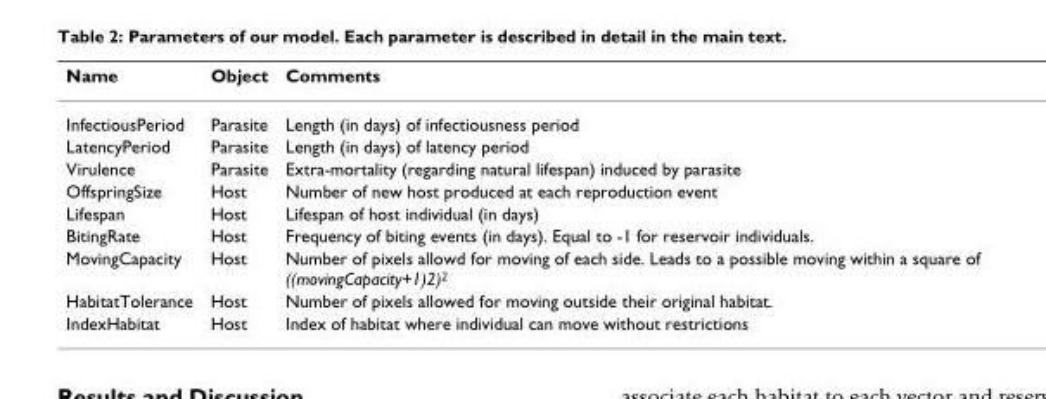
<table><thead><tr><td>Name</td><td>Object</td><td>Comments</td></tr></thead><tbody><tr><td>InfectiousPeriod</td><td>Parasite</td><td>Length (in days) of infectiousness period</td></tr><tr><td>LatencyPeriod</td><td>Parasite</td><td>Length (in days) of latency period</td></tr><tr><td>Virulence</td><td>Parasite</td><td>Extra-mortality (regarding natural lifespan) induced by parasite</td></tr><tr><td>OffspringSize</td><td>Host</td><td>Number of new host produced at each reproduction event</td></tr><tr><td>Lifespan</td><td>Host</td><td>Lifespan of host individual (in days)</td></tr><tr><td>BitingRate</td><td>Host</td><td>Frequency of biting events (in days). Equal to -1 for reservoir individuals.</td></tr><tr><td>MovingCapacity</td><td>Host</td><td>Number of pixels allowd for moving of each side. Leads to a possible moving within a square of ((movingCapacity+1)2)<sup>2</sup></td></tr><tr><td>HabitatTolerance</td><td>Host</td><td>Number of pixels allowed for moving outside their original habitat.</td></tr><tr><td>IndexHabitat</td><td>Host</td><td>Index of habitat where individual can move without restrictions</td></tr></tbody></table>